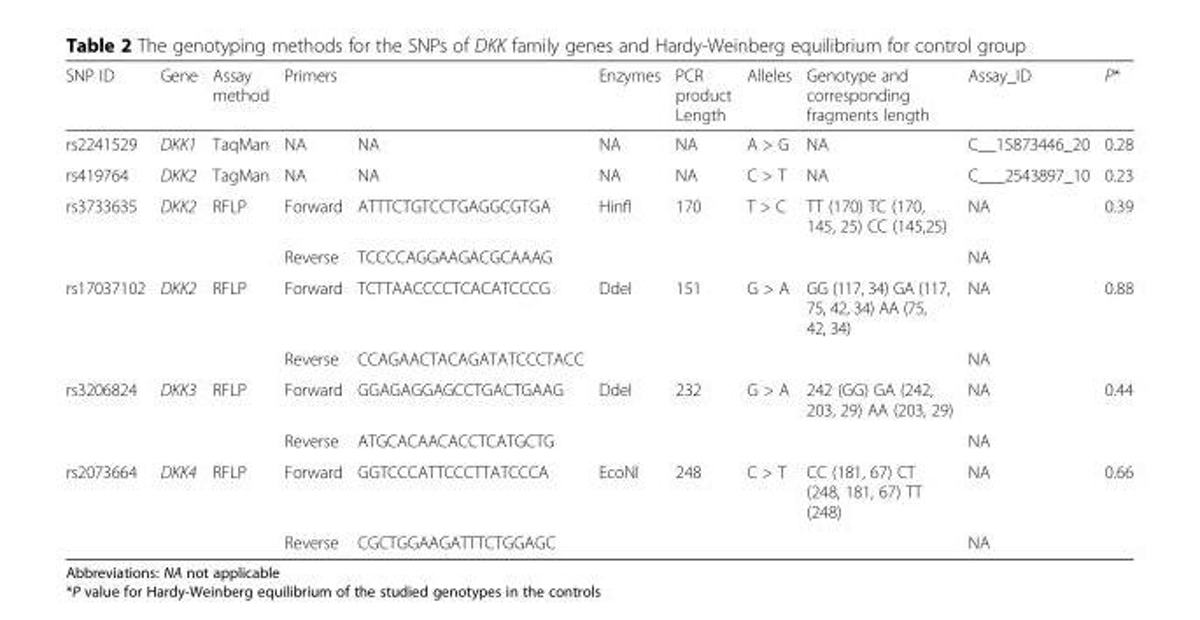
<table><thead><tr><td rowspan="2">SNP ID rs2241529</td><td rowspan="2">Gene DKK1</td><td rowspan="2">Assay method TaqMan</td><td colspan="2">Primers</td><td rowspan="2">Enzymes NA</td><td rowspan="2">PCR product Length NA</td><td rowspan="2">Alleles A &gt; G</td><td rowspan="2">Genotype and corresponding fragments length NA</td><td rowspan="2">Assay_ID C__15873446_20</td><td rowspan="2">P* 0.28</td></tr><tr><td>NA</td><td>NA</td></tr></thead><tbody><tr><td>rs419764</td><td>DKK2</td><td>TagMan</td><td>NA</td><td>NA</td><td>NA</td><td>NA</td><td>C &gt; T</td><td>NA</td><td>C___2543897_10</td><td>0.23</td></tr><tr><td rowspan="2">rs3733635</td><td>DKK2</td><td>RFLP</td><td>Forward</td><td>ATTTCTGTCCTGAGGCGTGA</td><td>HinfI</td><td>170</td><td>T &gt; C</td><td>TT (170) TC (170, 145, 25) CC (145,25)</td><td>NA</td><td>0.39</td></tr><tr><td></td><td></td><td>Reverse</td><td>TCCCCAGGAAGACGCAAAG</td><td></td><td></td><td></td><td></td><td>NA</td><td></td></tr><tr><td rowspan="2">rs17037102</td><td>DKK2</td><td>RFLP</td><td>Forward</td><td>TCTTAACCCCTCACATCCCG</td><td>DdeI</td><td>151</td><td>G &gt; A</td><td>GG (117, 34) GA (117, 75, 42, 34) AA (75, 42, 34)</td><td>NA</td><td>0.88</td></tr><tr><td></td><td></td><td>Reverse</td><td>CCAGAACTACAGATATCCCTACC</td><td></td><td></td><td></td><td></td><td>NA</td><td></td></tr><tr><td rowspan="2">rs3206824</td><td>DKK3</td><td>RFLP</td><td>Forward</td><td>GGAGAGGAGCCTGACTGAAG</td><td>DdeI</td><td>232</td><td>G &gt; A</td><td>242 (GG) GA (242, 203, 29) AA (203, 29)</td><td>NA</td><td>0.44</td></tr><tr><td></td><td></td><td>Reverse</td><td>ATGCACAACACCTCATGCTG</td><td></td><td></td><td></td><td></td><td>NA</td><td></td></tr><tr><td rowspan="2">rs2073664</td><td>DKK4</td><td>RFLP</td><td>Forward</td><td>GGTCCCATTCCCTTATCCCA</td><td>EcoNI</td><td>248</td><td>C &gt; T</td><td>CC (181, 67) CT (248, 181, 67) TT (248)</td><td>NA</td><td>0.66</td></tr><tr><td></td><td></td><td>Reverse</td><td>CGCTGGAAGATTTCTGGAGC</td><td></td><td></td><td></td><td></td><td>NA</td><td></td></tr></tbody></table>